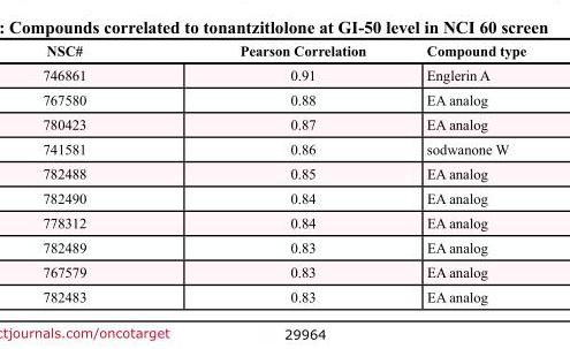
<table><thead><tr><td>NSC#</td><td>Pearson Correlation</td><td>Compound type</td></tr></thead><tbody><tr><td>746861</td><td>0.91</td><td>Englerin A</td></tr><tr><td>767580</td><td>0.88</td><td>EA analog</td></tr><tr><td>780423</td><td>0.87</td><td>EA analog</td></tr><tr><td>741581</td><td>0.86</td><td>sodwanone W</td></tr><tr><td>782488</td><td>0.85</td><td>EA analog</td></tr><tr><td>782490</td><td>0.84</td><td>EA analog</td></tr><tr><td>778312</td><td>0.84</td><td>EA analog</td></tr><tr><td>782489</td><td>0.83</td><td>EA analog</td></tr><tr><td>767579</td><td>0.83</td><td>EA analog</td></tr><tr><td>782483</td><td>0.83</td><td>EA analog</td></tr></tbody></table>